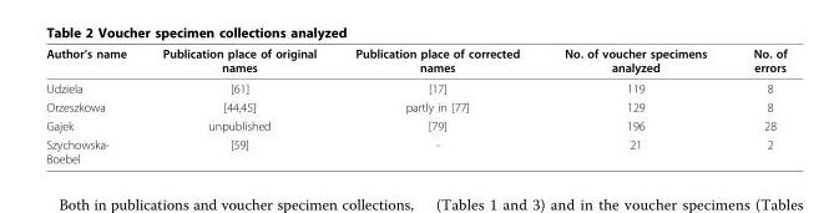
<table><thead><tr><td>Author’s name</td><td>Publication place of original names</td><td>Publication place of corrected names</td><td>No. of voucher specimens analyzed</td><td>No. of errors</td></tr></thead><tbody><tr><td>Udziela</td><td>[61]</td><td>[17]</td><td>119</td><td>8</td></tr><tr><td>Orzeszkowa</td><td>[44,45]</td><td>partly in [77]</td><td>129</td><td>8</td></tr><tr><td>Gajek</td><td>unpublished</td><td>[79]</td><td>196</td><td>28</td></tr><tr><td>Szychowska- Boebel</td><td>[59]</td><td>-</td><td>21</td><td>2</td></tr></tbody></table>